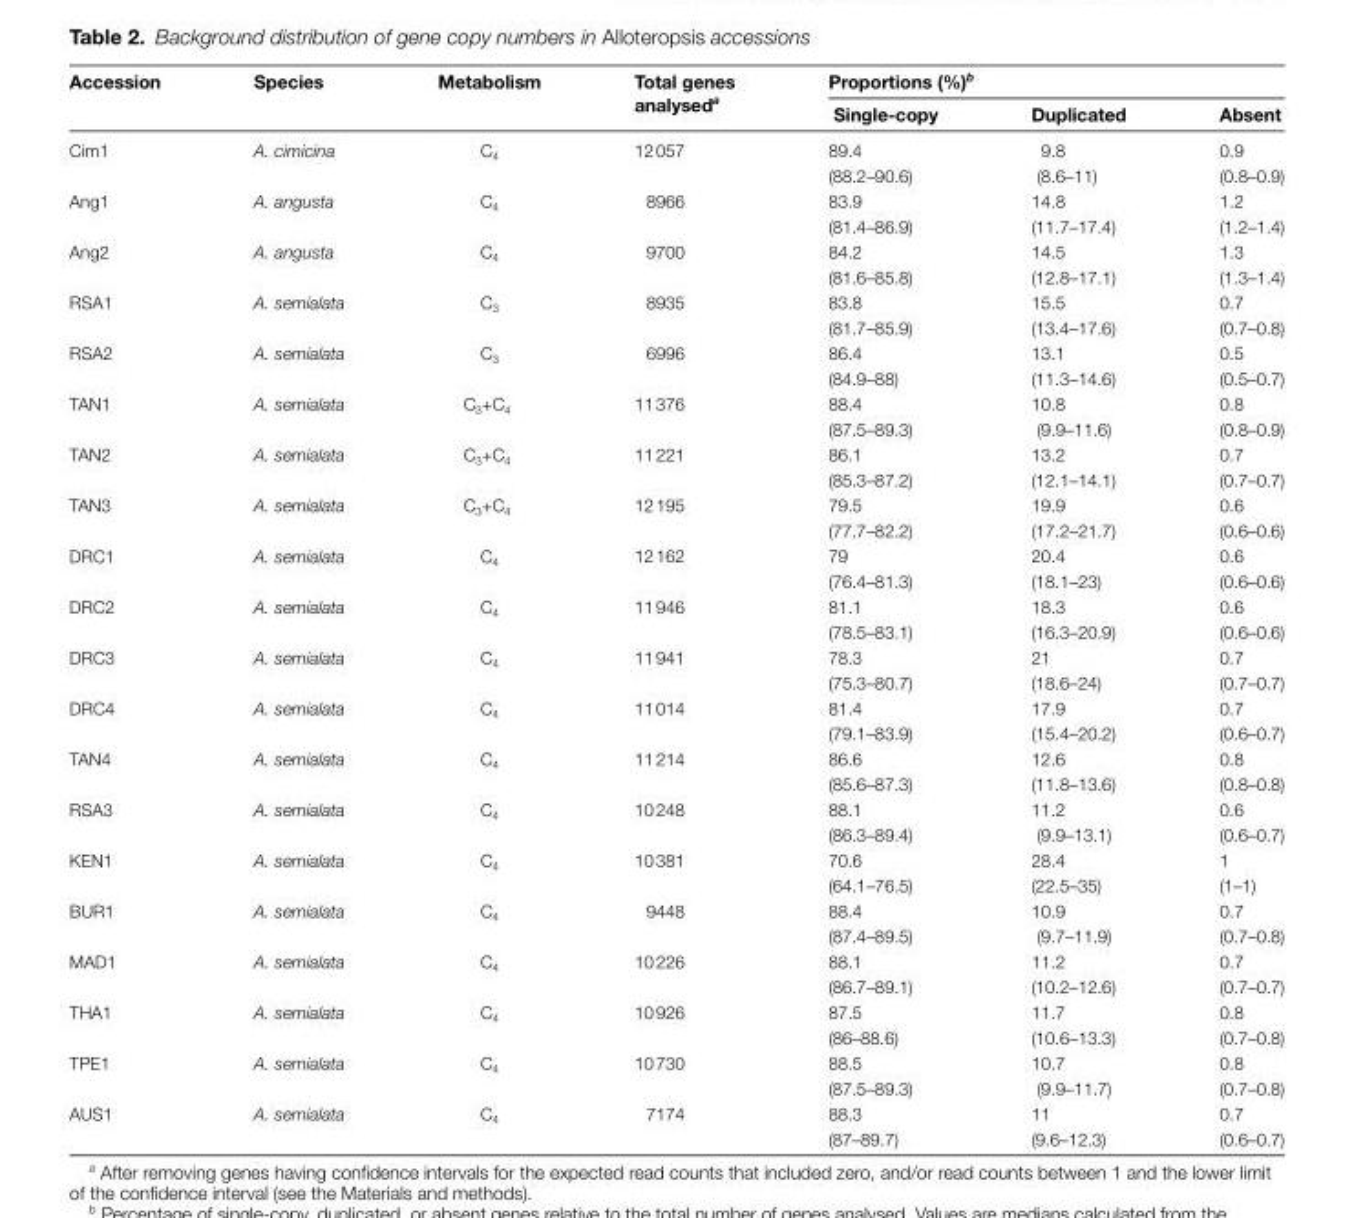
<table><thead><tr><td rowspan="2">Accession</td><td rowspan="2">Species</td><td rowspan="2">Metabolism</td><td rowspan="2">Total genes analysed<sup>a</sup></td><td colspan="3">Proportions (%)<sup>b</sup></td></tr><tr><td>Single-copy</td><td>Duplicated</td><td>Absent</td></tr></thead><tbody><tr><td>Cim1</td><td>A. cimicina</td><td>C<sub>4</sub></td><td>12 057</td><td>89.4 (88.2–90.6)</td><td>9.8 (8.6–11)</td><td>0.9 (0.8–0.9)</td></tr><tr><td>Ang1</td><td>A. angusta</td><td>C<sub>4</sub></td><td>8966</td><td>83.9 (81.4–86.9)</td><td>14.8 (11.7–17.4)</td><td>1.2 (1.2–1.4)</td></tr><tr><td>Ang2</td><td>A. angusta</td><td>C<sub>4</sub></td><td>9700</td><td>84.2 (81.6–85.8)</td><td>14.5 (12.8–17.1)</td><td>1.3 (1.3–1.4)</td></tr><tr><td>RSA1</td><td>A. semialata</td><td>C<sub>3</sub></td><td>8935</td><td>83.8 (81.7–85.9)</td><td>15.5 (13.4–17.6)</td><td>0.7 (0.7–0.8)</td></tr><tr><td>RSA2</td><td>A. semialata</td><td>C<sub>3</sub></td><td>6996</td><td>86.4 (84.9–88)</td><td>13.1 (11.3–14.6)</td><td>0.5 (0.5–0.7)</td></tr><tr><td>TAN1</td><td>A. semialata</td><td>C<sub>3</sub>+C<sub>4</sub></td><td>11 376</td><td>88.4 (87.5–89.3)</td><td>10.8 (9.9–11.6)</td><td>0.8 (0.8–0.9)</td></tr><tr><td>TAN2</td><td>A. semialata</td><td>C<sub>3</sub>+C<sub>4</sub></td><td>11 221</td><td>86.1 (85.3–87.2)</td><td>13.2 (12.1–14.1)</td><td>0.7 (0.7–0.7)</td></tr><tr><td>TAN3</td><td>A. semialata</td><td>C<sub>3</sub>+C<sub>4</sub></td><td>12 195</td><td>79.5 (77.7–82.2)</td><td>19.9 (17.2–21.7)</td><td>0.6 (0.6–0.6)</td></tr><tr><td>DRC1</td><td>A. semialata</td><td>C<sub>4</sub></td><td>12 162</td><td>79 (76.4–81.3)</td><td>20.4 (18.1–23)</td><td>0.6 (0.6–0.6)</td></tr><tr><td>DRC2</td><td>A. semialata</td><td>C<sub>4</sub></td><td>11 946</td><td>81.1 (78.5–83.1)</td><td>18.3 (16.3–20.9)</td><td>0.6 (0.6–0.6)</td></tr><tr><td>DRC3</td><td>A. semialata</td><td>C<sub>4</sub></td><td>11 941</td><td>78.3 (75.3–80.7)</td><td>21 (18.6–24)</td><td>0.7 (0.7–0.7)</td></tr><tr><td>DRC4</td><td>A. semialata</td><td>C<sub>4</sub></td><td>11 014</td><td>81.4 (79.1–83.9)</td><td>17.9 (15.4–20.2)</td><td>0.7 (0.6–0.7)</td></tr><tr><td>TAN4</td><td>A. semialata</td><td>C<sub>4</sub></td><td>11 214</td><td>86.6 (85.6–87.3)</td><td>12.6 (11.8–13.6)</td><td>0.8 (0.8–0.8)</td></tr><tr><td>RSA3</td><td>A. semialata</td><td>C<sub>4</sub></td><td>10 248</td><td>88.1 (86.3–89.4)</td><td>11.2 (9.9–13.1)</td><td>0.6 (0.6–0.7)</td></tr><tr><td>KEN1</td><td>A. semialata</td><td>C<sub>4</sub></td><td>10 381</td><td>70.6 (64.1–76.5)</td><td>28.4 (22.5–35)</td><td>1 (1–1)</td></tr><tr><td>BUR1</td><td>A. semialata</td><td>C<sub>4</sub></td><td>9448</td><td>88.4 (87.4–89.5)</td><td>10.9 (9.7–11.9)</td><td>0.7 (0.7–0.8)</td></tr><tr><td>MAD1</td><td>A. semialata</td><td>C<sub>4</sub></td><td>10 226</td><td>88.1 (86.7–89.1)</td><td>11.2 (10.2–12.6)</td><td>0.7 (0.7–0.7)</td></tr><tr><td>THA1</td><td>A. semialata</td><td>C<sub>4</sub></td><td>10 926</td><td>87.5 (86–88.6)</td><td>11.7 (10.6–13.3)</td><td>0.8 (0.7–0.8)</td></tr><tr><td>TPE1</td><td>A. semialata</td><td>C<sub>4</sub></td><td>10 730</td><td>88.5 (87.5–89.3)</td><td>10.7 (9.9–11.7)</td><td>0.8 (0.7–0.8)</td></tr><tr><td>AUS1</td><td>A. semialata</td><td>C<sub>4</sub></td><td>7174</td><td>88.3 (87–89.7)</td><td>11 (9.6–12.3)</td><td>0.7 (0.6–0.7)</td></tr></tbody></table>